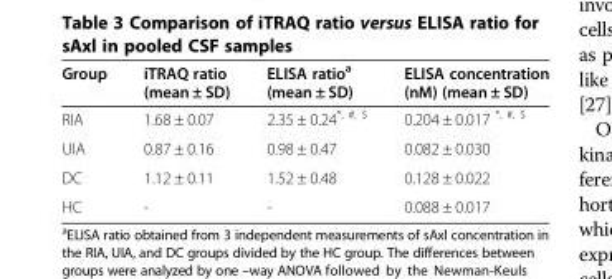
<table><thead><tr><td>Group</td><td>iTRAQ ratio (mean ± SD)</td><td>ELISA ratio<sup>a</sup> (mean ± SD)</td><td>ELISA concentration (nM) (mean ± SD)</td></tr></thead><tbody><tr><td>RIA</td><td>1.68 ± 0.07</td><td>2.35 ± 0.24<sup>*, #, $</sup></td><td>0.204 ± 0.017 <sup>*, #, $</sup></td></tr><tr><td>UIA</td><td>0.87 ± 0.16</td><td>0.98 ± 0.47</td><td>0.082 ± 0.030</td></tr><tr><td>DC</td><td>1.12 ± 0.11</td><td>1.52 ± 0.48</td><td>0.128 ± 0.022</td></tr><tr><td>HC</td><td>-</td><td>-</td><td>0.088 ± 0.017</td></tr></tbody></table>